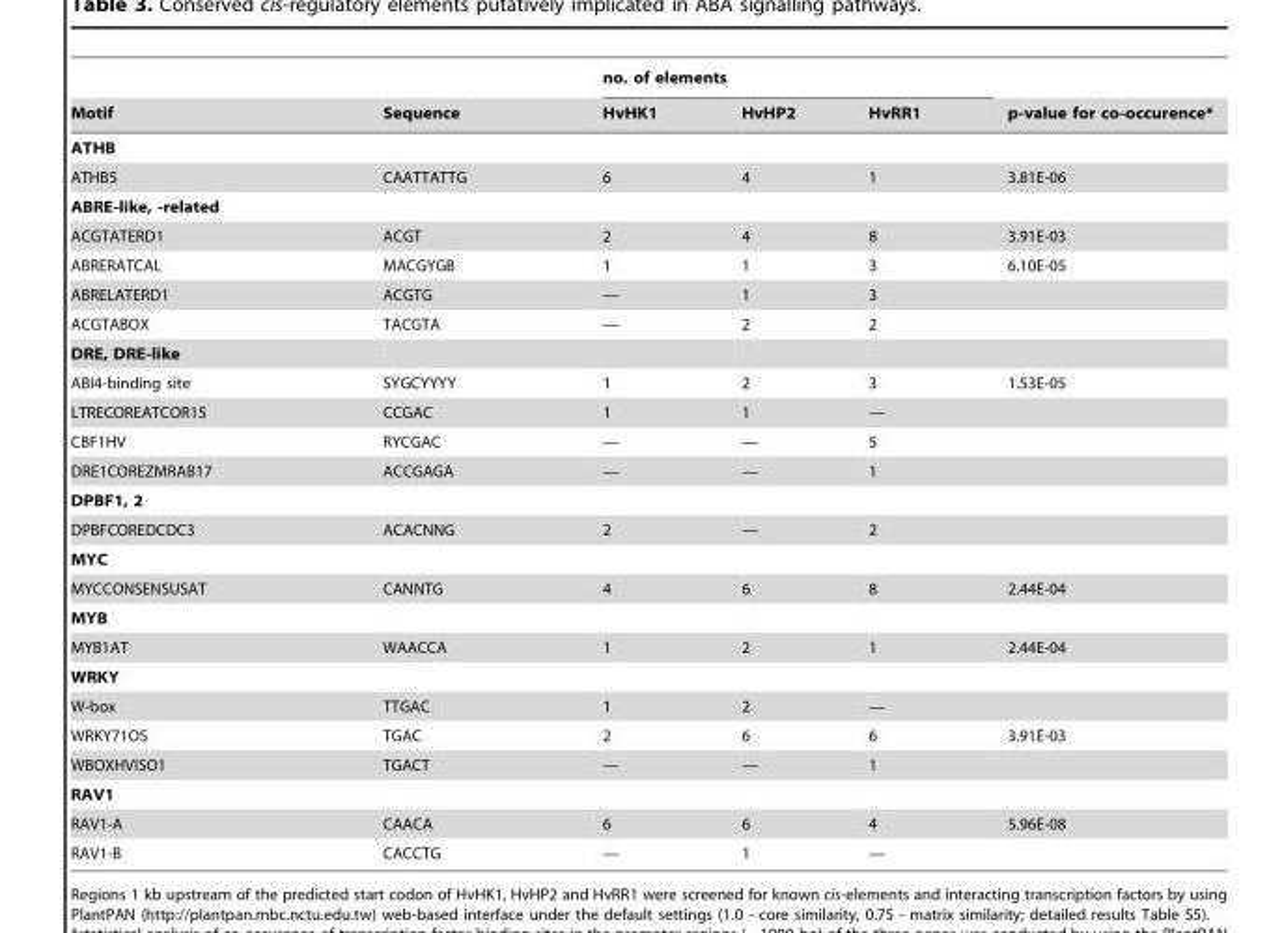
<table><thead><tr><td rowspan="2">Motif</td><td rowspan="2">Sequence</td><td colspan="3">no. of elements</td><td rowspan="2">p-value for co-occurence*</td></tr><tr><td>HvHK1</td><td>HvHP2</td><td>HvRR1</td></tr></thead><tbody><tr><td colspan="6">ATHB</td></tr><tr><td>ATHB5</td><td>CAATTATTG</td><td>6</td><td>4</td><td>1</td><td>3.81E-06</td></tr><tr><td colspan="6">ABRE-like, -related</td></tr><tr><td>ACGTATERD1</td><td>ACGT</td><td>2</td><td>4</td><td>8</td><td>3.91E-03</td></tr><tr><td>ABRERATCAL</td><td>MACGYGB</td><td>1</td><td>1</td><td>3</td><td>6.10E-05</td></tr><tr><td>ABRELATERD1</td><td>ACGTG</td><td>—</td><td>1</td><td>3</td><td></td></tr><tr><td>ACGTABOX</td><td>TACGTA</td><td>—</td><td>2</td><td>2</td><td></td></tr><tr><td colspan="6">DRE, DRE-like</td></tr><tr><td>ABI4-binding site</td><td>SYGCYYYY</td><td>1</td><td>2</td><td>3</td><td>1.53E-05</td></tr><tr><td>LTRECOREATCOR15</td><td>CCGAC</td><td>1</td><td>1</td><td>—</td><td></td></tr><tr><td>CBF1HV</td><td>RYCGAC</td><td>—</td><td>—</td><td>5</td><td></td></tr><tr><td>DRE1COREZMRAB17</td><td>ACCGAGA</td><td>—</td><td>—</td><td>1</td><td></td></tr><tr><td colspan="6">DPBF1, 2</td></tr><tr><td>DPBFCOREDCDC3</td><td>ACACNNG</td><td>2</td><td>—</td><td>2</td><td></td></tr><tr><td colspan="6">MYC</td></tr><tr><td>MYCCONSENSUSAT</td><td>CANNTG</td><td>4</td><td>6</td><td>8</td><td>2.44E-04</td></tr><tr><td colspan="6">MYB</td></tr><tr><td>MYB1AT</td><td>WAACCA</td><td>1</td><td>2</td><td>1</td><td>2.44E-04</td></tr><tr><td colspan="6">WRKY</td></tr><tr><td>W-box</td><td>TTGAC</td><td>1</td><td>2</td><td>—</td><td></td></tr><tr><td>WRKY71OS</td><td>TGAC</td><td>2</td><td>6</td><td>6</td><td>3.91E-03</td></tr><tr><td>WBOXHVISO1</td><td>TGACT</td><td>—</td><td>—</td><td>1</td><td></td></tr><tr><td colspan="6">RAV1</td></tr><tr><td>RAV1-A</td><td>CAACA</td><td>6</td><td>6</td><td>4</td><td>5.96E-08</td></tr><tr><td>RAV1-B</td><td>CACCTG</td><td>—</td><td>1</td><td>—</td><td></td></tr></tbody></table>